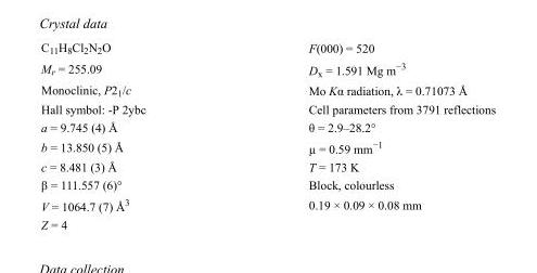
<table><tbody><tr><td>C<sub>11</sub>H<sub>8</sub>Cl<sub>2</sub>N<sub>2</sub>O</td><td>F(000) = 520</td></tr><tr><td>M<sub>r</sub> = 255.09</td><td>D<sub>x</sub> = 1.591 Mg m<sup>−3</sup></td></tr><tr><td>Monoclinic, P2<sub>1</sub>/c</td><td>Mo Kα radiation, λ = 0.71073 Å</td></tr><tr><td>Hall symbol: -P 2ybc</td><td>Cell parameters from 3791 reflections</td></tr><tr><td>a = 9.745 (4) Å</td><td>θ = 2.9–28.2°</td></tr><tr><td>b = 13.850 (5) Å</td><td>µ = 0.59 mm<sup>−1</sup></td></tr><tr><td>c = 8.481 (3) Å</td><td>T = 173 K</td></tr><tr><td>β = 111.557 (6)°</td><td>Block, colourless</td></tr><tr><td>V = 1064.7 (7) Å<sup>3</sup></td><td>0.19 × 0.09 × 0.08 mm</td></tr><tr><td>Z = 4</td><td></td></tr></tbody></table>